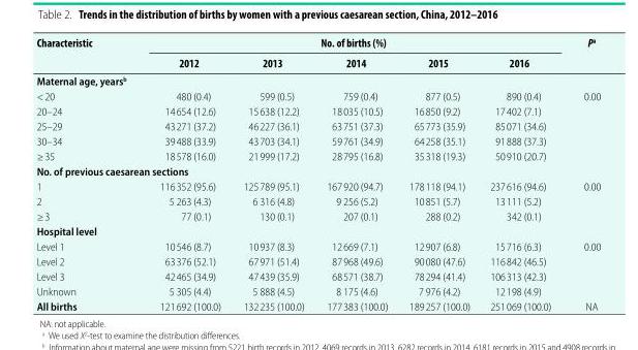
<table><thead><tr><td rowspan="2">Characteristic</td><td colspan="5">No. of births (%)</td><td rowspan="2">P<sup>a</sup></td></tr><tr><td>2012</td><td>2013</td><td>2014</td><td>2015</td><td>2016</td></tr></thead><tbody><tr><td colspan="7">Maternal age, years<sup>b</sup></td></tr><tr><td>&lt; 20</td><td>480 (0.4)</td><td>599 (0.5)</td><td>759 (0.4)</td><td>877 (0.5)</td><td>890 (0.4)</td><td rowspan="5">0.00</td></tr><tr><td>20–24</td><td>14 654 (12.6)</td><td>15 638 (12.2)</td><td>18 035 (10.5)</td><td>16 850 (9.2)</td><td>17 402 (7.1)</td></tr><tr><td>25–29</td><td>43 271 (37.2)</td><td>46 227 (36.1)</td><td>63 751 (37.3)</td><td>65 773 (35.9)</td><td>85 071 (34.6)</td></tr><tr><td>30–34</td><td>39 488 (33.9)</td><td>43 703 (34.1)</td><td>59 761 (34.9)</td><td>64 258 (35.1)</td><td>91 888 (37.3)</td></tr><tr><td>≥ 35</td><td>18 578 (16.0)</td><td>21 999 (17.2)</td><td>28 795 (16.8)</td><td>35 318 (19.3)</td><td>50 910 (20.7)</td></tr><tr><td colspan="7">No. of previous caesarean sections</td></tr><tr><td>1</td><td>116 352 (95.6)</td><td>125 789 (95.1)</td><td>167 920 (94.7)</td><td>178 118 (94.1)</td><td>237 616 (94.6)</td><td rowspan="3">0.00</td></tr><tr><td>2</td><td>5 263 (4.3)</td><td>6 316 (4.8)</td><td>9 256 (5.2)</td><td>10 851 (5.7)</td><td>13 111 (5.2)</td></tr><tr><td>≥ 3</td><td>77 (0.1)</td><td>130 (0.1)</td><td>207 (0.1)</td><td>288 (0.2)</td><td>342 (0.1)</td></tr><tr><td colspan="7">Hospital level</td></tr><tr><td>Level 1</td><td>10 546 (8.7)</td><td>10 937 (8.3)</td><td>12 669 (7.1)</td><td>12 907 (6.8)</td><td>15 716 (6.3)</td><td rowspan="4">0.00</td></tr><tr><td>Level 2</td><td>63 376 (52.1)</td><td>67 971 (51.4)</td><td>87 968 (49.6)</td><td>90 080 (47.6)</td><td>116 842 (46.5)</td></tr><tr><td>Level 3</td><td>42 465 (34.9)</td><td>47 439 (35.9)</td><td>68 571 (38.7)</td><td>78 294 (41.4)</td><td>106 313 (42.3)</td></tr><tr><td>Unknown</td><td>5 305 (4.4)</td><td>5 888 (4.5)</td><td>8 175 (4.6)</td><td>7 976 (4.2)</td><td>12 198 (4.9)</td></tr><tr><td>All births</td><td>121 692 (100.0)</td><td>132 235 (100.0)</td><td>177 383 (100.0)</td><td>189 257 (100.0)</td><td>251 069 (100.0)</td><td>NA</td></tr></tbody></table>